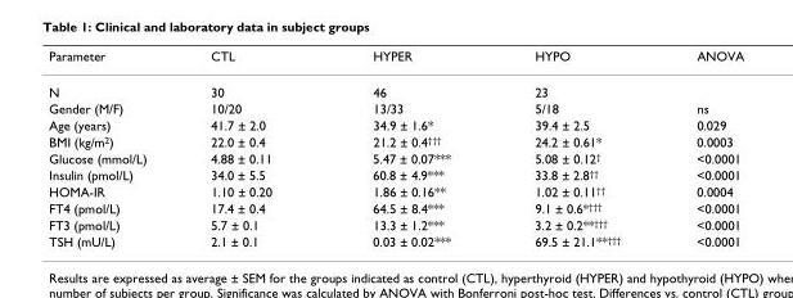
<table><thead><tr><td>Parameter</td><td>CTL</td><td>HYPER</td><td>HYPO</td><td>ANOVA</td></tr></thead><tbody><tr><td>N</td><td>30</td><td>46</td><td>23</td><td></td></tr><tr><td>Gender (M/F)</td><td>10/20</td><td>13/33</td><td>5/18</td><td>ns</td></tr><tr><td>Age (years)</td><td>41.7 ± 2.0</td><td>34.9 ± 1.6*</td><td>39.4 ± 2.5</td><td>0.029</td></tr><tr><td>BMI (kg/m<sup>2</sup>)</td><td>22.0 ± 0.4</td><td>21.2 ± 0.4<sup>†††</sup></td><td>24.2 ± 0.61*</td><td>0.0003</td></tr><tr><td>Glucose (mmol/L)</td><td>4.88 ± 0.11</td><td>5.47 ± 0.07***</td><td>5.08 ± 0.12<sup>†</sup></td><td>&lt;0.0001</td></tr><tr><td>Insulin (pmol/L)</td><td>34.0 ± 5.5</td><td>60.8 ± 4.9***</td><td>33.8 ± 2.8<sup>††</sup></td><td>&lt;0.0001</td></tr><tr><td>HOMA-IR</td><td>1.10 ± 0.20</td><td>1.86 ± 0.16**</td><td>1.02 ± 0.11<sup>††</sup></td><td>0.0004</td></tr><tr><td>FT4 (pmol/L)</td><td>17.4 ± 0.4</td><td>64.5 ± 8.4***</td><td>9.1 ± 0.6*<sup>†††</sup></td><td>&lt;0.0001</td></tr><tr><td>FT3 (pmol/L)</td><td>5.7 ± 0.1</td><td>13.3 ± 1.2***</td><td>3.2 ± 0.2**<sup>†††</sup></td><td>&lt;0.0001</td></tr><tr><td>TSH (mU/L)</td><td>2.1 ± 0.1</td><td>0.03 ± 0.02***</td><td>69.5 ± 21.1**<sup>†††</sup></td><td>&lt;0.0001</td></tr></tbody></table>